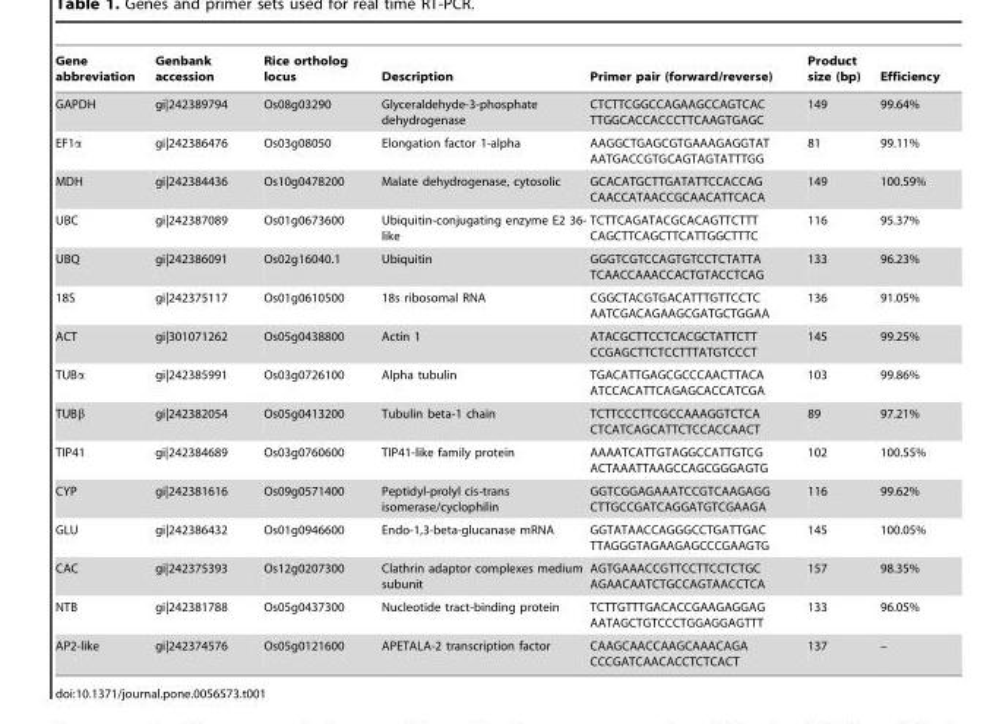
<table><thead><tr><td>Gene abbreviation</td><td>Genbank accession</td><td>Rice ortholog locus</td><td>Description</td><td>Primer pair (forward/reverse)</td><td>Product size (bp)</td><td>Efficiency</td></tr></thead><tbody><tr><td>GAPDH</td><td>gi|242389794</td><td>Os08g03290</td><td>Glyceraldehyde-3-phosphate dehydrogenase</td><td>CTCTTCGGCCAGAAGCCAGTCAC TTGGCACCACCCTTCAAGTGAGC</td><td>149</td><td>99.64%</td></tr><tr><td>EF1α</td><td>gi|242386476</td><td>Os03g08050</td><td>Elongation factor 1-alpha</td><td>AAGGCTGAGCGTGAAAGAGGTAT AATGACCGTGCAGTAGTATTTGG</td><td>81</td><td>99.11%</td></tr><tr><td>MDH</td><td>gi|242384436</td><td>Os10g0478200</td><td>Malate dehydrogenase, cytosolic</td><td>GCACATGCTTGATATTCCACCAG CAACCATAACCGCAACATTCACA</td><td>149</td><td>100.59%</td></tr><tr><td>UBC</td><td>gi|242387089</td><td>Os01g0673600</td><td>Ubiquitin-conjugating enzyme E2 36- like</td><td>TCTTCAGATACGCACAGTTCTTT CAGCTTCAGCTTCATTGGCTTTC</td><td>116</td><td>95.37%</td></tr><tr><td>UBQ</td><td>gi|242386091</td><td>Os02g16040.1</td><td>Ubiquitin</td><td>GGGTCGTCCAGTGTCCTCTATTA TCAACCAAACCACTGTACCTCAG</td><td>133</td><td>96.23%</td></tr><tr><td>18S</td><td>gi|242375117</td><td>Os01g0610500</td><td>18s ribosomal RNA</td><td>CGGCTACGTGACATTTGTTCCTC AATCGACAGAAGCGATGCTGGAA</td><td>136</td><td>91.05%</td></tr><tr><td>ACT</td><td>gi|301071262</td><td>Os05g0438800</td><td>Actin 1</td><td>ATACGCTTCCTCACGCTATTCTT CCGAGCTTCTCCTTTATGTCCCT</td><td>145</td><td>99.25%</td></tr><tr><td>TUBα</td><td>gi|242385991</td><td>Os03g0726100</td><td>Alpha tubulin</td><td>TGACATTGAGCGCCCAACTTACA ATCCACATTCAGAGCACCATCGA</td><td>103</td><td>99.86%</td></tr><tr><td>TUBβ</td><td>gi|242382054</td><td>Os05g0413200</td><td>Tubulin beta-1 chain</td><td>TCTTCCCTTCGCCAAAGGTCTCA CTCATCAGCATTCTCCACCAACT</td><td>89</td><td>97.21%</td></tr><tr><td>TIP41</td><td>gi|242384689</td><td>Os03g0760600</td><td>TIP41-like family protein</td><td>AAAATCATTGTAGGCCATTGTCG ACTAAATTAAGCCAGCGGGAGTG</td><td>102</td><td>100.55%</td></tr><tr><td>CYP</td><td>gi|242381616</td><td>Os09g0571400</td><td>Peptidyl-prolyl cis-trans isomerase/cyclophilin</td><td>GGTCGGAGAAATCCGTCAAGAGG CTTGCCGATCAGGATGTCGAAGA</td><td>116</td><td>99.62%</td></tr><tr><td>GLU</td><td>gi|242386432</td><td>Os01g0946600</td><td>Endo-1,3-beta-glucanase mRNA</td><td>GGTATAACCAGGGCCTGATTGAC TTAGGGTAGAAGAGCCCGAAGTG</td><td>145</td><td>100.05%</td></tr><tr><td>CAC</td><td>gi|242375393</td><td>Os12g0207300</td><td>Clathrin adaptor complexes medium subunit</td><td>AGTGAAACCGTTCCTTCCTCTGC AGAACAATCTGCCAGTAACCTCA</td><td>157</td><td>98.35%</td></tr><tr><td>NTB</td><td>gi|242381788</td><td>Os05g0437300</td><td>Nucleotide tract-binding protein</td><td>TCTTGTTTGACACCGAAGAGGAG AATAGCTGTCCCTGGAGGAGTTT</td><td>133</td><td>96.05%</td></tr><tr><td>AP2-like</td><td>gi|242374576</td><td>Os05g0121600</td><td>APETALA-2 transcription factor</td><td>CAAGCAACCAAGCAAACAGA CCCGATCAACACCTCTCACT</td><td>137</td><td>–</td></tr></tbody></table>